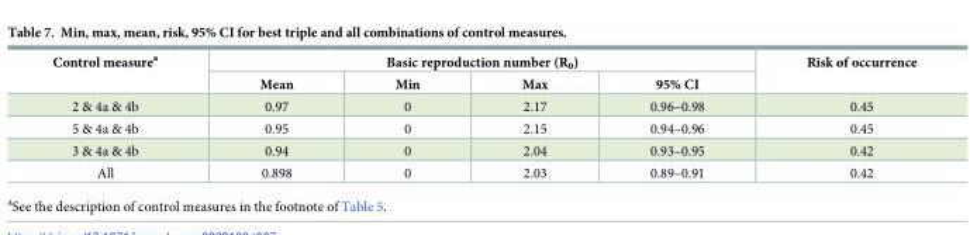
<table><thead><tr><td rowspan="2">Control measure<sup>a</sup></td><td colspan="4">Basic reproduction number (R<sub>0</sub>)</td><td rowspan="2">Risk of occurrence</td></tr><tr><td>Mean</td><td>Min</td><td>Max</td><td>95% CI</td></tr></thead><tbody><tr><td>2 &amp; 4a &amp; 4b</td><td>0.97</td><td>0</td><td>2.17</td><td>0.96–0.98</td><td>0.45</td></tr><tr><td>5 &amp; 4a &amp; 4b</td><td>0.95</td><td>0</td><td>2.15</td><td>0.94–0.96</td><td>0.45</td></tr><tr><td>3 &amp; 4a &amp; 4b</td><td>0.94</td><td>0</td><td>2.04</td><td>0.93–0.95</td><td>0.42</td></tr><tr><td>All</td><td>0.898</td><td>0</td><td>2.03</td><td>0.89–0.91</td><td>0.42</td></tr></tbody></table>